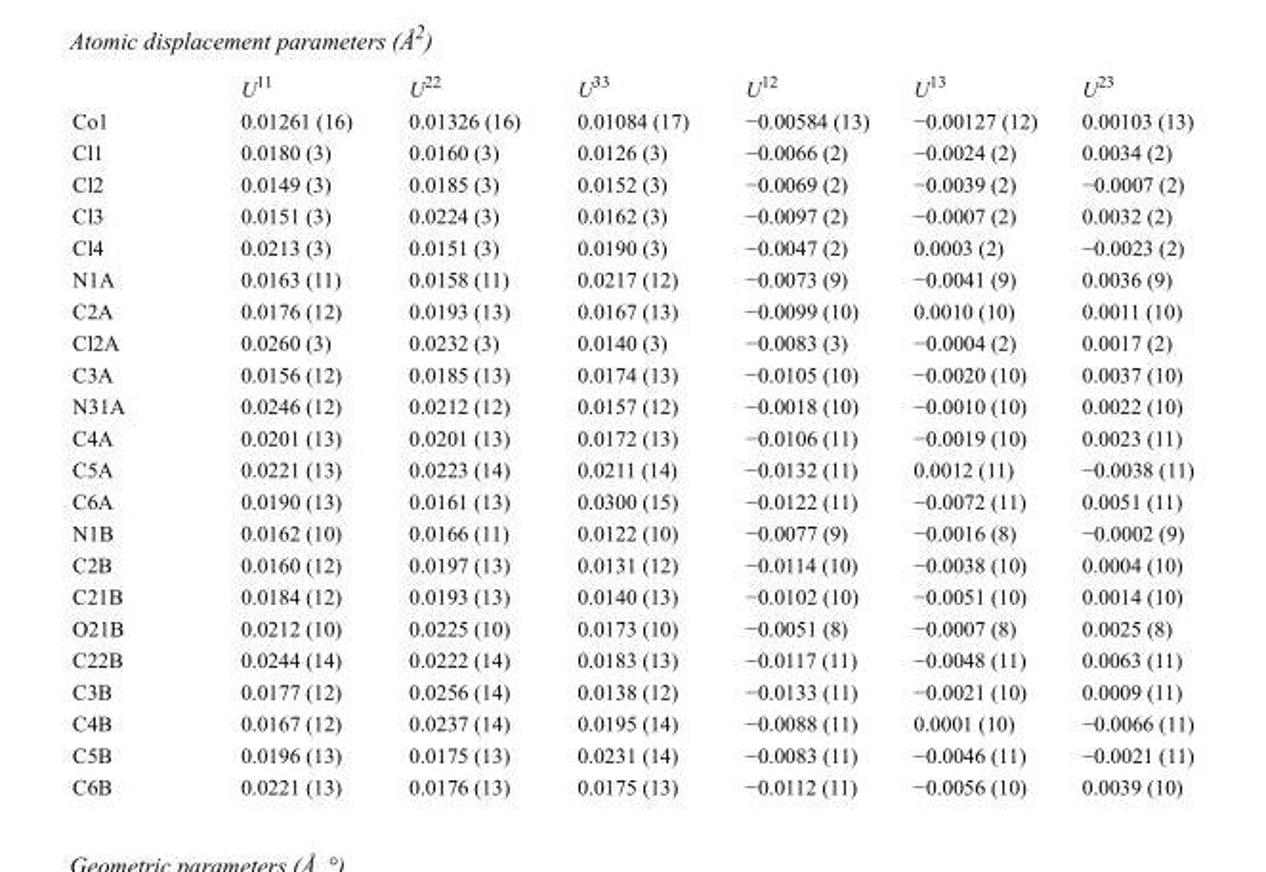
<table><thead><tr><td></td><td>U<sup>11</sup></td><td>U<sup>22</sup></td><td>U<sup>33</sup></td><td>U<sup>12</sup></td><td>U<sup>13</sup></td><td>U<sup>23</sup></td></tr></thead><tbody><tr><td>Co1</td><td>0.01261 (16)</td><td>0.01326 (16)</td><td>0.01084 (17)</td><td>−0.00584 (13)</td><td>−0.00127 (12)</td><td>0.00103 (13)</td></tr><tr><td>Cl1</td><td>0.0180 (3)</td><td>0.0160 (3)</td><td>0.0126 (3)</td><td>−0.0066 (2)</td><td>−0.0024 (2)</td><td>0.0034 (2)</td></tr><tr><td>Cl2</td><td>0.0149 (3)</td><td>0.0185 (3)</td><td>0.0152 (3)</td><td>−0.0069 (2)</td><td>−0.0039 (2)</td><td>−0.0007 (2)</td></tr><tr><td>Cl3</td><td>0.0151 (3)</td><td>0.0224 (3)</td><td>0.0162 (3)</td><td>−0.0097 (2)</td><td>−0.0007 (2)</td><td>0.0032 (2)</td></tr><tr><td>Cl4</td><td>0.0213 (3)</td><td>0.0151 (3)</td><td>0.0190 (3)</td><td>−0.0047 (2)</td><td>0.0003 (2)</td><td>−0.0023 (2)</td></tr><tr><td>N1A</td><td>0.0163 (11)</td><td>0.0158 (11)</td><td>0.0217 (12)</td><td>−0.0073 (9)</td><td>−0.0041 (9)</td><td>0.0036 (9)</td></tr><tr><td>C2A</td><td>0.0176 (12)</td><td>0.0193 (13)</td><td>0.0167 (13)</td><td>−0.0099 (10)</td><td>0.0010 (10)</td><td>0.0011 (10)</td></tr><tr><td>Cl2A</td><td>0.0260 (3)</td><td>0.0232 (3)</td><td>0.0140 (3)</td><td>−0.0083 (3)</td><td>−0.0004 (2)</td><td>0.0017 (2)</td></tr><tr><td>C3A</td><td>0.0156 (12)</td><td>0.0185 (13)</td><td>0.0174 (13)</td><td>−0.0105 (10)</td><td>−0.0020 (10)</td><td>0.0037 (10)</td></tr><tr><td>N31A</td><td>0.0246 (12)</td><td>0.0212 (12)</td><td>0.0157 (12)</td><td>−0.0018 (10)</td><td>−0.0010 (10)</td><td>0.0022 (10)</td></tr><tr><td>C4A</td><td>0.0201 (13)</td><td>0.0201 (13)</td><td>0.0172 (13)</td><td>−0.0106 (11)</td><td>−0.0019 (10)</td><td>0.0023 (11)</td></tr><tr><td>C5A</td><td>0.0221 (13)</td><td>0.0223 (14)</td><td>0.0211 (14)</td><td>−0.0132 (11)</td><td>0.0012 (11)</td><td>−0.0038 (11)</td></tr><tr><td>C6A</td><td>0.0190 (13)</td><td>0.0161 (13)</td><td>0.0300 (15)</td><td>−0.0122 (11)</td><td>−0.0072 (11)</td><td>0.0051 (11)</td></tr><tr><td>N1B</td><td>0.0162 (10)</td><td>0.0166 (11)</td><td>0.0122 (10)</td><td>−0.0077 (9)</td><td>−0.0016 (8)</td><td>−0.0002 (9)</td></tr><tr><td>C2B</td><td>0.0160 (12)</td><td>0.0197 (13)</td><td>0.0131 (12)</td><td>−0.0114 (10)</td><td>−0.0038 (10)</td><td>0.0004 (10)</td></tr><tr><td>C21B</td><td>0.0184 (12)</td><td>0.0193 (13)</td><td>0.0140 (13)</td><td>−0.0102 (10)</td><td>−0.0051 (10)</td><td>0.0014 (10)</td></tr><tr><td>O21B</td><td>0.0212 (10)</td><td>0.0225 (10)</td><td>0.0173 (10)</td><td>−0.0051 (8)</td><td>−0.0007 (8)</td><td>0.0025 (8)</td></tr><tr><td>C22B</td><td>0.0244 (14)</td><td>0.0222 (14)</td><td>0.0183 (13)</td><td>−0.0117 (11)</td><td>−0.0048 (11)</td><td>0.0063 (11)</td></tr><tr><td>C3B</td><td>0.0177 (12)</td><td>0.0256 (14)</td><td>0.0138 (12)</td><td>−0.0133 (11)</td><td>−0.0021 (10)</td><td>0.0009 (11)</td></tr><tr><td>C4B</td><td>0.0167 (12)</td><td>0.0237 (14)</td><td>0.0195 (14)</td><td>−0.0088 (11)</td><td>0.0001 (10)</td><td>−0.0066 (11)</td></tr><tr><td>C5B</td><td>0.0196 (13)</td><td>0.0175 (13)</td><td>0.0231 (14)</td><td>−0.0083 (11)</td><td>−0.0046 (11)</td><td>−0.0021 (11)</td></tr><tr><td>C6B</td><td>0.0221 (13)</td><td>0.0176 (13)</td><td>0.0175 (13)</td><td>−0.0112 (11)</td><td>−0.0056 (10)</td><td>0.0039 (10)</td></tr></tbody></table>